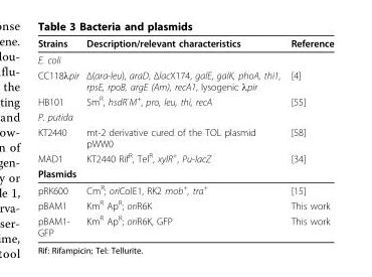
<table><thead><tr><td>Strains</td><td>Description/relevant characteristics</td><td>Reference</td></tr></thead><tbody><tr><td colspan="3">E. coli</td></tr><tr><td>CC118λpir</td><td>Δ(ara-leu), araD, ΔlacX174, galE, galK, phoA, thi1, rpsE, rpoB, argE (Am), recA1, lysogenic λpir</td><td>[4]</td></tr><tr><td>HB101</td><td>Sm<sup>R</sup>, hsdR<sup>-</sup>M<sup>+</sup>, pro, leu, thi, recA</td><td>[55]</td></tr><tr><td colspan="3">P. putida</td></tr><tr><td>KT2440</td><td>mt-2 derivative cured of the TOL plasmid pWW0</td><td>[58]</td></tr><tr><td>MAD1</td><td>KT2440 Rif<sup>R</sup>, Tel<sup>R</sup>, xylR<sup>+</sup>, Pu-lacZ</td><td>[34]</td></tr><tr><td colspan="3">Plasmids</td></tr><tr><td>pRK600</td><td>Cm<sup>R</sup>; oriColE1, RK2 mob<sup>+</sup>, tra<sup>+</sup></td><td>[15]</td></tr><tr><td>pBAM1</td><td>Km<sup>R</sup> Ap<sup>R</sup>; oriR6K</td><td>This work</td></tr><tr><td>pBAM1- GFP</td><td>Km<sup>R</sup> Ap<sup>R</sup>; oriR6K, GFP</td><td>This work</td></tr></tbody></table>